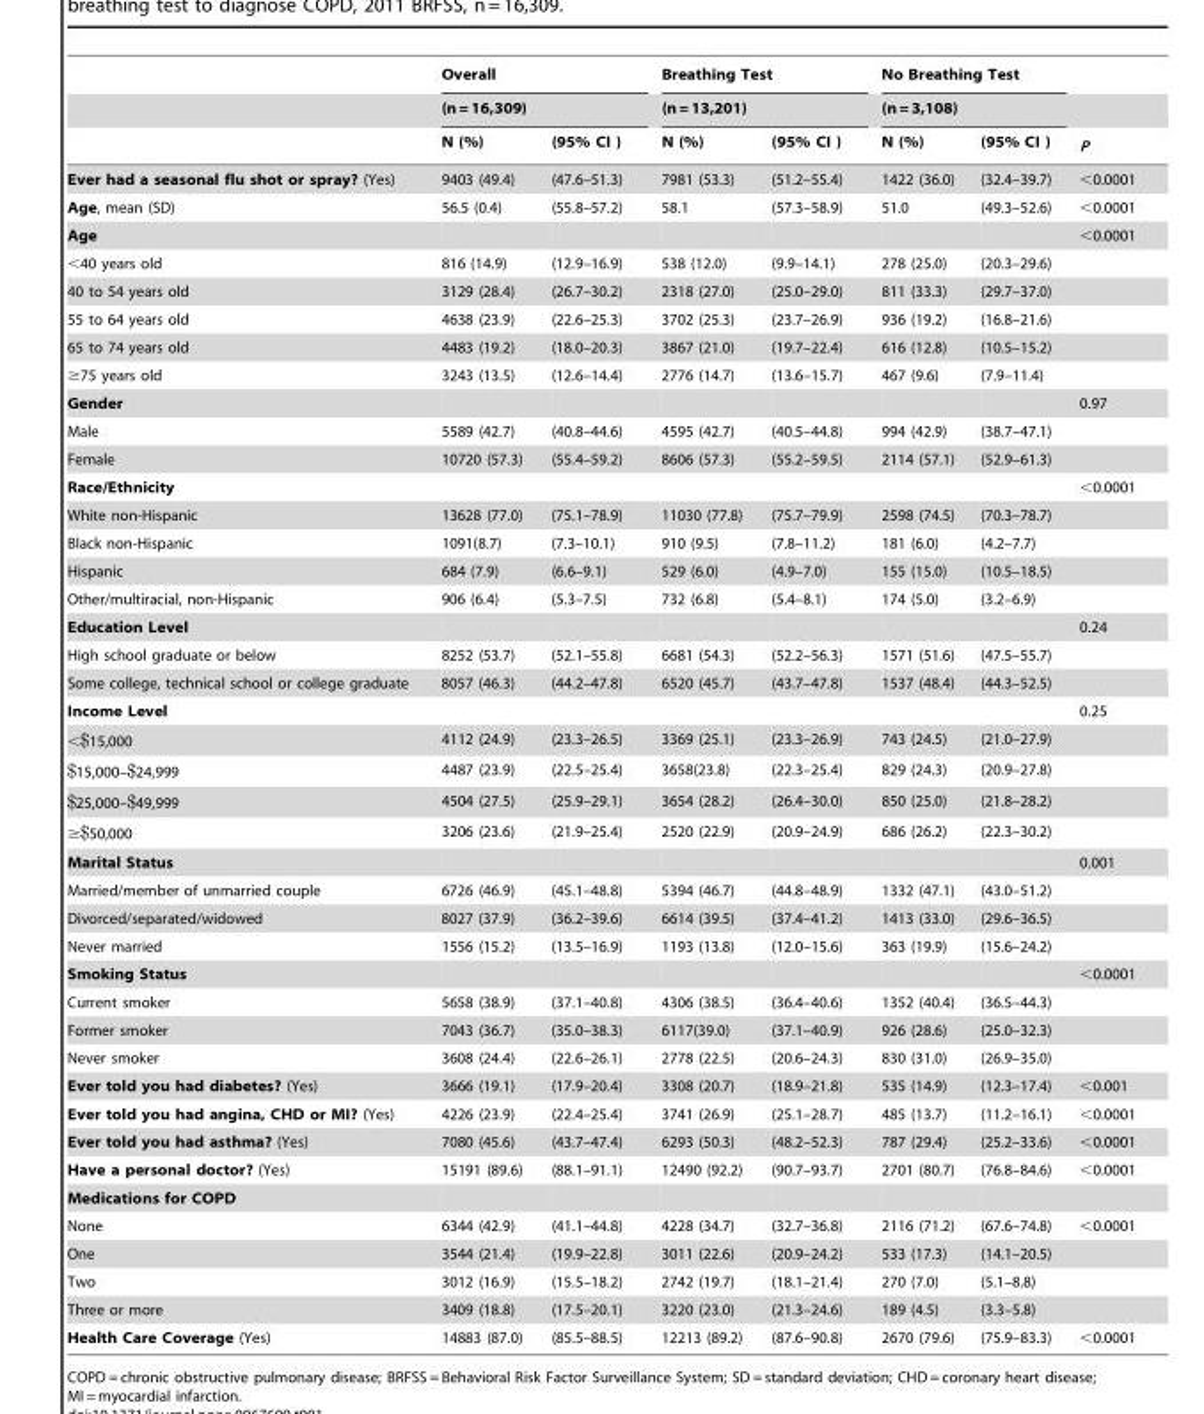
<table><thead><tr><td rowspan="3"></td><td rowspan="2" colspan="2">Overall (n = 16,309)</td><td rowspan="2" colspan="2">Breathing Test (n = 13,201)</td><td rowspan="2" colspan="2">No Breathing Test (n = 3,108)</td><td rowspan="3">P</td></tr><tr></tr><tr><td>N (%)</td><td>(95% CI )</td><td>N (%)</td><td>(95% CI )</td><td>N (%)</td><td>(95% CI )</td></tr></thead><tbody><tr><td>Ever had a seasonal flu shot or spray? (Yes)</td><td>9403 (49.4)</td><td>(47.6–51.3)</td><td>7981 (53.3)</td><td>(51.2–55.4)</td><td>1422 (36.0)</td><td>(32.4–39.7)</td><td>&lt;0.0001</td></tr><tr><td>Age, mean (SD)</td><td>56.5 (0.4)</td><td>(55.8–57.2)</td><td>58.1</td><td>(57.3–58.9)</td><td>51.0</td><td>(49.3–52.6)</td><td>&lt;0.0001</td></tr><tr><td>Age</td><td></td><td></td><td></td><td></td><td></td><td></td><td>&lt;0.0001</td></tr><tr><td>&lt;40 years old</td><td>816 (14.9)</td><td>(12.9–16.9)</td><td>538 (12.0)</td><td>(9.9–14.1)</td><td>278 (25.0)</td><td>(20.3–29.6)</td><td></td></tr><tr><td>40 to 54 years old</td><td>3129 (28.4)</td><td>(26.7–30.2)</td><td>2318 (27.0)</td><td>(25.0–29.0)</td><td>811 (33.3)</td><td>(29.7–37.0)</td><td></td></tr><tr><td>55 to 64 years old</td><td>4638 (23.9)</td><td>(22.6–25.3)</td><td>3702 (25.3)</td><td>(23.7–26.9)</td><td>936 (19.2)</td><td>(16.8–21.6)</td><td></td></tr><tr><td>65 to 74 years old</td><td>4483 (19.2)</td><td>(18.0–20.3)</td><td>3867 (21.0)</td><td>(19.7–22.4)</td><td>616 (12.8)</td><td>(10.5–15.2)</td><td></td></tr><tr><td>≥75 years old</td><td>3243 (13.5)</td><td>(12.6–14.4)</td><td>2776 (14.7)</td><td>(13.6–15.7)</td><td>467 (9.6)</td><td>(7.9–11.4)</td><td></td></tr><tr><td>Gender</td><td></td><td></td><td></td><td></td><td></td><td></td><td>0.97</td></tr><tr><td>Male</td><td>5589 (42.7)</td><td>(40.8–44.6)</td><td>4595 (42.7)</td><td>(40.5–44.8)</td><td>994 (42.9)</td><td>(38.7–47.1)</td><td></td></tr><tr><td>Female</td><td>10720 (57.3)</td><td>(55.4–59.2)</td><td>8606 (57.3)</td><td>(55.2–59.5)</td><td>2114 (57.1)</td><td>(52.9–61.3)</td><td></td></tr><tr><td>Race/Ethnicity</td><td></td><td></td><td></td><td></td><td></td><td></td><td>&lt;0.0001</td></tr><tr><td>White non-Hispanic</td><td>13628 (77.0)</td><td>(75.1–78.9)</td><td>11030 (77.8)</td><td>(75.7–79.9)</td><td>2598 (74.5)</td><td>(70.3–78.7)</td><td></td></tr><tr><td>Black non-Hispanic</td><td>1091(8.7)</td><td>(7.3–10.1)</td><td>910 (9.5)</td><td>(7.8–11.2)</td><td>181 (6.0)</td><td>(4.2–7.7)</td><td></td></tr><tr><td>Hispanic</td><td>684 (7.9)</td><td>(6.6–9.1)</td><td>529 (6.0)</td><td>(4.9–7.0)</td><td>155 (15.0)</td><td>(10.5–18.5)</td><td></td></tr><tr><td>Other/multiracial, non-Hispanic</td><td>906 (6.4)</td><td>(5.3–7.5)</td><td>732 (6.8)</td><td>(5.4–8.1)</td><td>174 (5.0)</td><td>(3.2–6.9)</td><td></td></tr><tr><td>Education Level</td><td></td><td></td><td></td><td></td><td></td><td></td><td>0.24</td></tr><tr><td>High school graduate or below</td><td>8252 (53.7)</td><td>(52.1–55.8)</td><td>6681 (54.3)</td><td>(52.2–56.3)</td><td>1571 (51.6)</td><td>(47.5–55.7)</td><td></td></tr><tr><td>Some college, technical school or college graduate</td><td>8057 (46.3)</td><td>(44.2–47.8)</td><td>6520 (45.7)</td><td>(43.7–47.8)</td><td>1537 (48.4)</td><td>(44.3–52.5)</td><td></td></tr><tr><td>Income Level</td><td></td><td></td><td></td><td></td><td></td><td></td><td>0.25</td></tr><tr><td>&lt;$15,000</td><td>4112 (24.9)</td><td>(23.3–26.5)</td><td>3369 (25.1)</td><td>(23.3–26.9)</td><td>743 (24.5)</td><td>(21.0–27.9)</td><td></td></tr><tr><td>$15,000–$24,999</td><td>4487 (23.9)</td><td>(22.5–25.4)</td><td>3658(23.8)</td><td>(22.3–25.4)</td><td>829 (24.3)</td><td>(20.9–27.8)</td><td></td></tr><tr><td>$25,000–$49,999</td><td>4504 (27.5)</td><td>(25.9–29.1)</td><td>3654 (28.2)</td><td>(26.4–30.0)</td><td>850 (25.0)</td><td>(21.8–28.2)</td><td></td></tr><tr><td>≥$50,000</td><td>3206 (23.6)</td><td>(21.9–25.4)</td><td>2520 (22.9)</td><td>(20.9–24.9)</td><td>686 (26.2)</td><td>(22.3–30.2)</td><td></td></tr><tr><td>Marital Status</td><td></td><td></td><td></td><td></td><td></td><td></td><td>0.001</td></tr><tr><td>Married/member of unmarried couple</td><td>6726 (46.9)</td><td>(45.1–48.8)</td><td>5394 (46.7)</td><td>(44.8–48.9)</td><td>1332 (47.1)</td><td>(43.0–51.2)</td><td></td></tr><tr><td>Divorced/separated/widowed</td><td>8027 (37.9)</td><td>(36.2–39.6)</td><td>6614 (39.5)</td><td>(37.4–41.2)</td><td>1413 (33.0)</td><td>(29.6–36.5)</td><td></td></tr><tr><td>Never married</td><td>1556 (15.2)</td><td>(13.5–16.9)</td><td>1193 (13.8)</td><td>(12.0–15.6)</td><td>363 (19.9)</td><td>(15.6–24.2)</td><td></td></tr><tr><td>Smoking Status</td><td></td><td></td><td></td><td></td><td></td><td></td><td>&lt;0.0001</td></tr><tr><td>Current smoker</td><td>5658 (38.9)</td><td>(37.1–40.8)</td><td>4306 (38.5)</td><td>(36.4–40.6)</td><td>1352 (40.4)</td><td>(36.5–44.3)</td><td></td></tr><tr><td>Former smoker</td><td>7043 (36.7)</td><td>(35.0–38.3)</td><td>6117(39.0)</td><td>(37.1–40.9)</td><td>926 (28.6)</td><td>(25.0–32.3)</td><td></td></tr><tr><td>Never smoker</td><td>3608 (24.4)</td><td>(22.6–26.1)</td><td>2778 (22.5)</td><td>(20.6–24.3)</td><td>830 (31.0)</td><td>(26.9–35.0)</td><td></td></tr><tr><td>Ever told you had diabetes? (Yes)</td><td>3666 (19.1)</td><td>(17.9–20.4)</td><td>3308 (20.7)</td><td>(18.9–21.8)</td><td>535 (14.9)</td><td>(12.3–17.4)</td><td>&lt;0.001</td></tr><tr><td>Ever told you had angina, CHD or MI? (Yes)</td><td>4226 (23.9)</td><td>(22.4–25.4)</td><td>3741 (26.9)</td><td>(25.1–28.7)</td><td>485 (13.7)</td><td>(11.2–16.1)</td><td>&lt;0.0001</td></tr><tr><td>Ever told you had asthma? (Yes)</td><td>7080 (45.6)</td><td>(43.7–47.4)</td><td>6293 (50.3)</td><td>(48.2–52.3)</td><td>787 (29.4)</td><td>(25.2–33.6)</td><td>&lt;0.0001</td></tr><tr><td>Have a personal doctor? (Yes)</td><td>15191 (89.6)</td><td>(88.1–91.1)</td><td>12490 (92.2)</td><td>(90.7–93.7)</td><td>2701 (80.7)</td><td>(76.8–84.6)</td><td>&lt;0.0001</td></tr><tr><td colspan="8">Medications for COPD</td></tr><tr><td>None</td><td>6344 (42.9)</td><td>(41.1–44.8)</td><td>4228 (34.7)</td><td>(32.7–36.8)</td><td>2116 (71.2)</td><td>(67.6–74.8)</td><td>&lt;0.0001</td></tr><tr><td>One</td><td>3544 (21.4)</td><td>(19.9–22.8)</td><td>3011 (22.6)</td><td>(20.9–24.2)</td><td>533 (17.3)</td><td>(14.1–20.5)</td><td></td></tr><tr><td>Two</td><td>3012 (16.9)</td><td>(15.5–18.2)</td><td>2742 (19.7)</td><td>(18.1–21.4)</td><td>270 (7.0)</td><td>(5.1–8.8)</td><td></td></tr><tr><td>Three or more</td><td>3409 (18.8)</td><td>(17.5–20.1)</td><td>3220 (23.0)</td><td>(21.3–24.6)</td><td>189 (4.5)</td><td>(3.3–5.8)</td><td></td></tr><tr><td>Health Care Coverage (Yes)</td><td>14883 (87.0)</td><td>(85.5–88.5)</td><td>12213 (89.2)</td><td>(87.6–90.8)</td><td>2670 (79.6)</td><td>(75.9–83.3)</td><td>&lt;0.0001</td></tr></tbody></table>